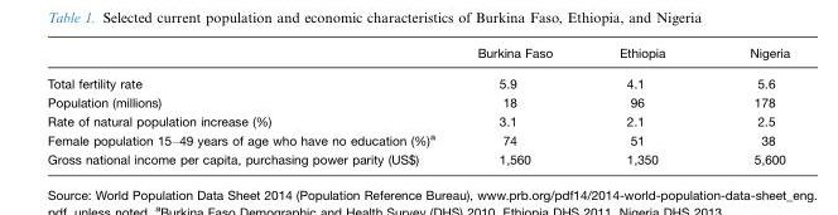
<table><thead><tr><td></td><td>Burkina Faso</td><td>Ethiopia</td><td>Nigeria</td></tr></thead><tbody><tr><td>Total fertility rate</td><td>5.9</td><td>4.1</td><td>5.6</td></tr><tr><td>Population (millions)</td><td>18</td><td>96</td><td>178</td></tr><tr><td>Rate of natural population increase (%)</td><td>3.1</td><td>2.1</td><td>2.5</td></tr><tr><td>Female population 15–49 years of age who have no education (%)a</td><td>74</td><td>51</td><td>38</td></tr><tr><td>Gross national income per capita, purchasing power parity (US$)</td><td>1,560</td><td>1,350</td><td>5,600</td></tr></tbody></table>